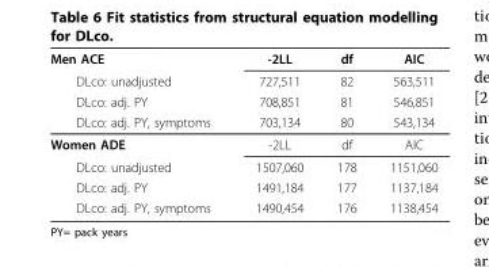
<table><thead><tr><td rowspan="4">Men ACE DLco: unadjusted DLco: adj. PY DLco: adj. PY, symptoms</td><td rowspan="4">-2LL 727,511 708,851 703,134</td><td rowspan="4">df 82 81 80</td><td rowspan="4">AIC 563,511 546,851 543,134</td></tr><tr></tr><tr></tr><tr></tr></thead><tbody><tr><td>Women ADE</td><td>-2LL</td><td>df</td><td>AIC</td></tr><tr><td>DLco: unadjusted</td><td>1507,060</td><td>178</td><td>1151,060</td></tr><tr><td>DLco: adj. PY</td><td>1491,184</td><td>177</td><td>1137,184</td></tr><tr><td>DLco: adj. PY, symptoms</td><td>1490,454</td><td>176</td><td>1138,454</td></tr></tbody></table>